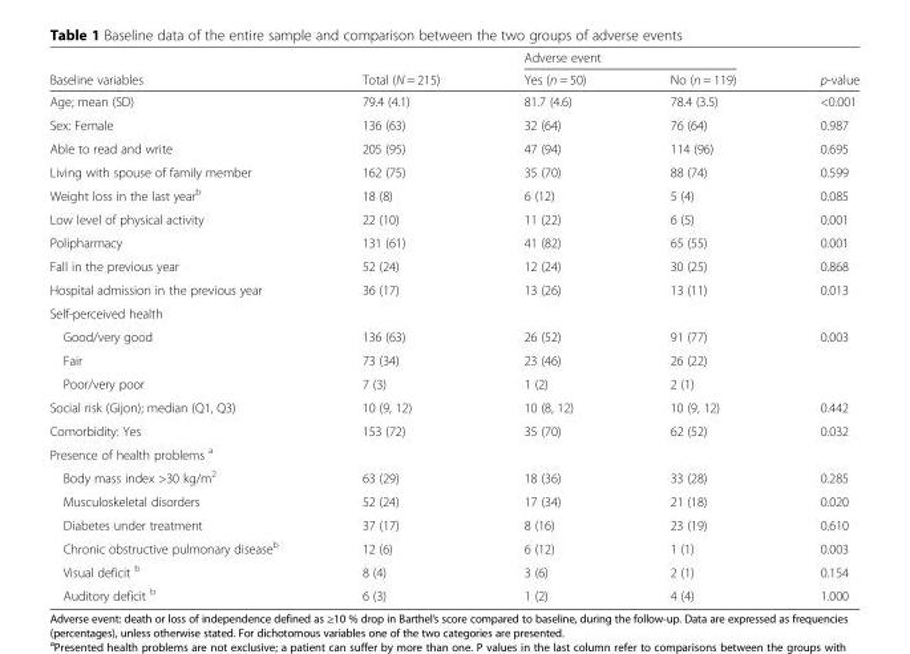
<table><thead><tr><td rowspan="2">Baseline variables</td><td rowspan="2">Total (N = 215)</td><td colspan="2">Adverse event</td><td rowspan="2">p-value</td></tr><tr><td>Yes (n = 50)</td><td>No (n = 119)</td></tr></thead><tbody><tr><td>Age; mean (SD)</td><td>79.4 (4.1)</td><td>81.7 (4.6)</td><td>78.4 (3.5)</td><td>&lt;0.001</td></tr><tr><td>Sex: Female</td><td>136 (63)</td><td>32 (64)</td><td>76 (64)</td><td>0.987</td></tr><tr><td>Able to read and write</td><td>205 (95)</td><td>47 (94)</td><td>114 (96)</td><td>0.695</td></tr><tr><td>Living with spouse of family member</td><td>162 (75)</td><td>35 (70)</td><td>88 (74)</td><td>0.599</td></tr><tr><td>Weight loss in the last year<sup>b</sup></td><td>18 (8)</td><td>6 (12)</td><td>5 (4)</td><td>0.085</td></tr><tr><td>Low level of physical activity</td><td>22 (10)</td><td>11 (22)</td><td>6 (5)</td><td>0.001</td></tr><tr><td>Polipharmacy</td><td>131 (61)</td><td>41 (82)</td><td>65 (55)</td><td>0.001</td></tr><tr><td>Fall in the previous year</td><td>52 (24)</td><td>12 (24)</td><td>30 (25)</td><td>0.868</td></tr><tr><td>Hospital admission in the previous year</td><td>36 (17)</td><td>13 (26)</td><td>13 (11)</td><td>0.013</td></tr><tr><td colspan="5">Self-perceived health</td></tr><tr><td>Good/very good</td><td>136 (63)</td><td>26 (52)</td><td>91 (77)</td><td>0.003</td></tr><tr><td>Fair</td><td>73 (34)</td><td>23 (46)</td><td>26 (22)</td><td></td></tr><tr><td>Poor/very poor</td><td>7 (3)</td><td>1 (2)</td><td>2 (1)</td><td></td></tr><tr><td>Social risk (Gijon); median (Q1, Q3)</td><td>10 (9, 12)</td><td>10 (8, 12)</td><td>10 (9, 12)</td><td>0.442</td></tr><tr><td>Comorbidity: Yes</td><td>153 (72)</td><td>35 (70)</td><td>62 (52)</td><td>0.032</td></tr><tr><td colspan="5">Presence of health problems <sup>a</sup></td></tr><tr><td>Body mass index &gt;30 kg/m<sup>2</sup></td><td>63 (29)</td><td>18 (36)</td><td>33 (28)</td><td>0.285</td></tr><tr><td>Musculoskeletal disorders</td><td>52 (24)</td><td>17 (34)</td><td>21 (18)</td><td>0.020</td></tr><tr><td>Diabetes under treatment</td><td>37 (17)</td><td>8 (16)</td><td>23 (19)</td><td>0.610</td></tr><tr><td>Chronic obstructive pulmonary disease<sup>b</sup></td><td>12 (6)</td><td>6 (12)</td><td>1 (1)</td><td>0.003</td></tr><tr><td>Visual deficit <sup>b</sup></td><td>8 (4)</td><td>3 (6)</td><td>2 (1)</td><td>0.154</td></tr><tr><td>Auditory deficit <sup>b</sup></td><td>6 (3)</td><td>1 (2)</td><td>4 (4)</td><td>1.000</td></tr></tbody></table>